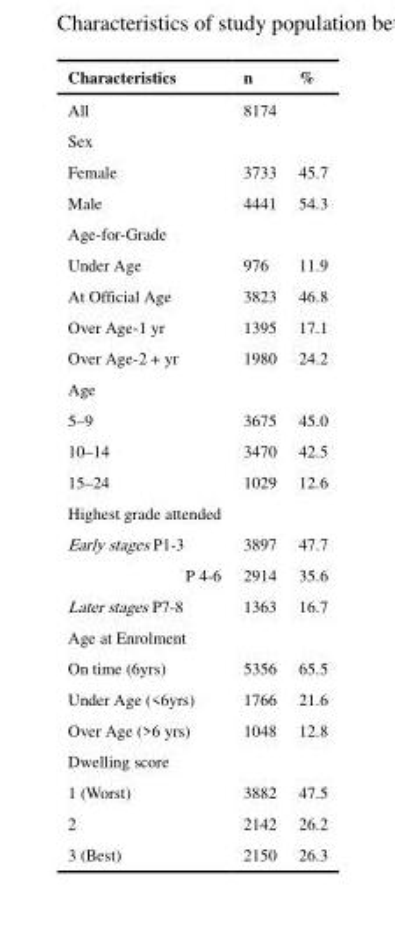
<table><thead><tr><td>Characteristics</td><td>n</td><td>%</td></tr></thead><tbody><tr><td>All</td><td>8174</td><td></td></tr><tr><td colspan="3">Sex</td></tr><tr><td>Female</td><td>3733</td><td>45.7</td></tr><tr><td>Male</td><td>4441</td><td>54.3</td></tr><tr><td colspan="3">Age-for-Grade</td></tr><tr><td>Under Age</td><td>976</td><td>11.9</td></tr><tr><td>At Official Age</td><td>3823</td><td>46.8</td></tr><tr><td>Over Age-1 yr</td><td>1395</td><td>17.1</td></tr><tr><td>Over Age-2 + yr</td><td>1980</td><td>24.2</td></tr><tr><td colspan="3">Age</td></tr><tr><td>5–9</td><td>3675</td><td>45.0</td></tr><tr><td>10–14</td><td>3470</td><td>42.5</td></tr><tr><td>15–24</td><td>1029</td><td>12.6</td></tr><tr><td colspan="3">Highest grade attended</td></tr><tr><td>Early stages P1-3</td><td>3897</td><td>47.7</td></tr><tr><td>P 4-6</td><td>2914</td><td>35.6</td></tr><tr><td>Later stages P7-8</td><td>1363</td><td>16.7</td></tr><tr><td colspan="3">Age at Enrolment</td></tr><tr><td>On time (6yrs)</td><td>5356</td><td>65.5</td></tr><tr><td>Under Age (&lt;6yrs)</td><td>1766</td><td>21.6</td></tr><tr><td>Over Age (&gt;6 yrs)</td><td>1048</td><td>12.8</td></tr><tr><td colspan="3">Dwelling score</td></tr><tr><td>1 (Worst)</td><td>3882</td><td>47.5</td></tr><tr><td>2</td><td>2142</td><td>26.2</td></tr><tr><td>3 (Best)</td><td>2150</td><td>26.3</td></tr></tbody></table>